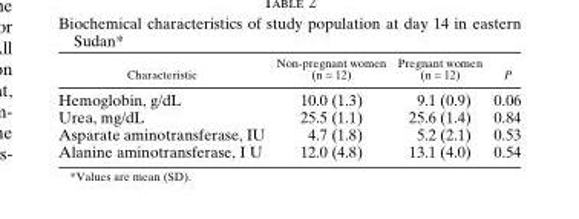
<table><thead><tr><td>Characteristic</td><td>Non-pregnant women (n = 12)</td><td>Pregnant women (n = 12)</td><td>P</td></tr></thead><tbody><tr><td>Hemoglobin, g/dL</td><td>10.0 (1.3)</td><td>9.1 (0.9)</td><td>0.06</td></tr><tr><td>Urea, mg/dL</td><td>25.5 (1.1)</td><td>25.6 (1.4)</td><td>0.84</td></tr><tr><td>Asparate aminotransferase, IU</td><td>4.7 (1.8)</td><td>5.2 (2.1)</td><td>0.53</td></tr><tr><td>Alanine aminotransferase, I U</td><td>12.0 (4.8)</td><td>13.1 (4.0)</td><td>0.54</td></tr></tbody></table>